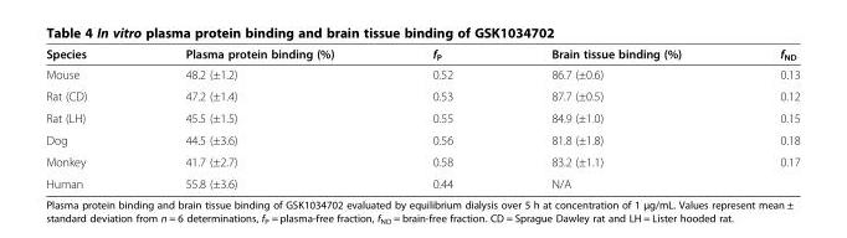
<table><thead><tr><td>Species</td><td>Plasma protein binding (%)</td><td>f<sub>P</sub></td><td>Brain tissue binding (%)</td><td>f<sub>ND</sub></td></tr></thead><tbody><tr><td>Mouse</td><td>48.2 (±1.2)</td><td>0.52</td><td>86.7 (±0.6)</td><td>0.13</td></tr><tr><td>Rat (CD)</td><td>47.2 (±1.4)</td><td>0.53</td><td>87.7 (±0.5)</td><td>0.12</td></tr><tr><td>Rat (LH)</td><td>45.5 (±1.5)</td><td>0.55</td><td>84.9 (±1.0)</td><td>0.15</td></tr><tr><td>Dog</td><td>44.5 (±3.6)</td><td>0.56</td><td>81.8 (±1.8)</td><td>0.18</td></tr><tr><td>Monkey</td><td>41.7 (±2.7)</td><td>0.58</td><td>83.2 (±1.1)</td><td>0.17</td></tr><tr><td>Human</td><td>55.8 (±3.6)</td><td>0.44</td><td>N/A</td><td></td></tr></tbody></table>